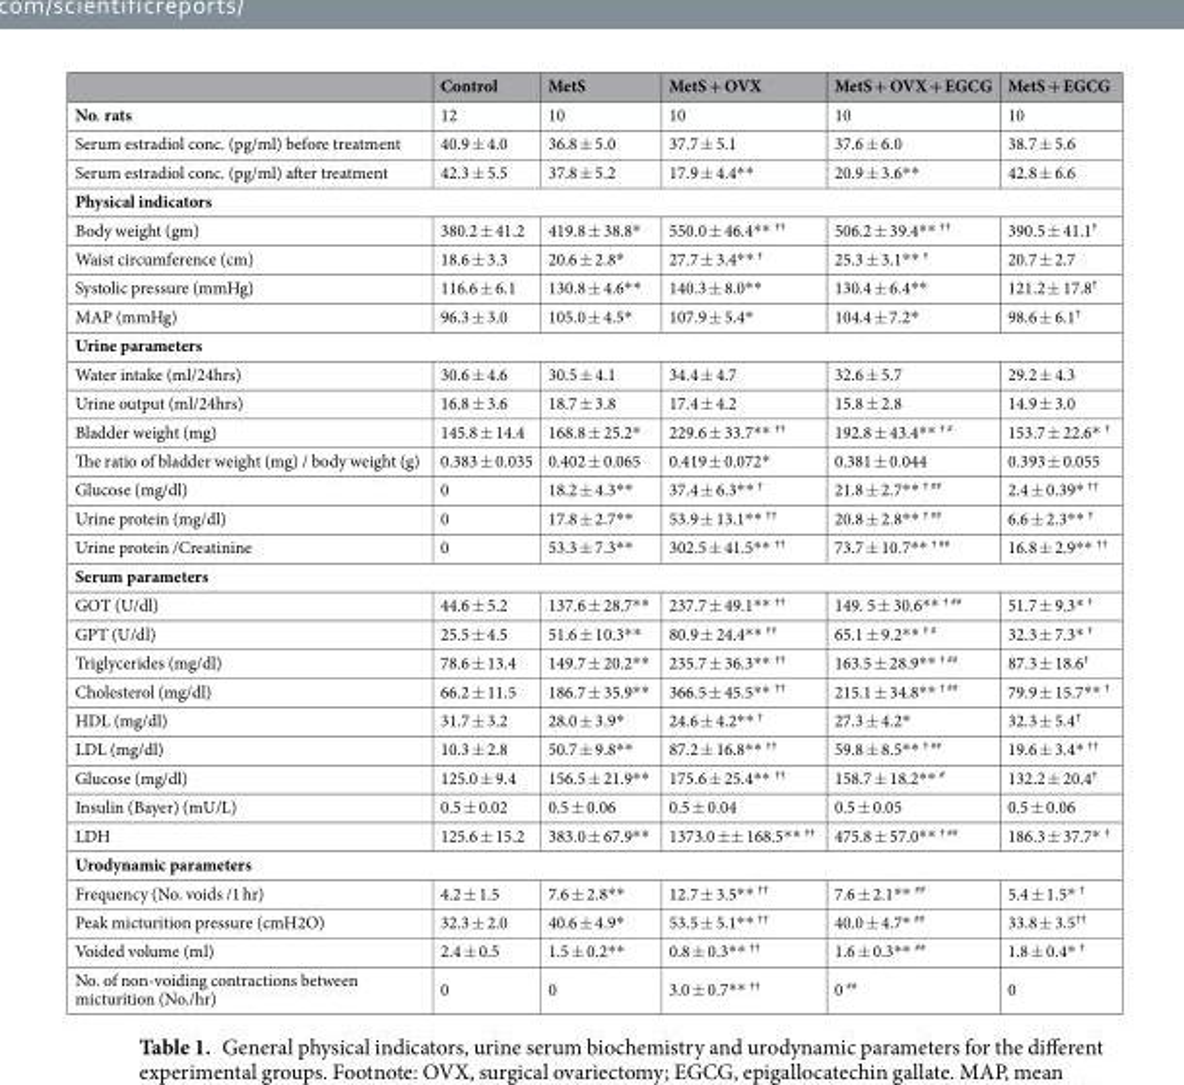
<table><thead><tr><td></td><td>Control</td><td>MetS</td><td>MetS + OVX</td><td>MetS + OVX + EGCG</td><td>MetS + EGCG</td></tr></thead><tbody><tr><td>No. rats</td><td>12</td><td>10</td><td>10</td><td>10</td><td>10</td></tr><tr><td>Serum estradiol conc. (pg/ml) before treatment</td><td>40.9 ± 4.0</td><td>36.8 ± 5.0</td><td>37.7 ± 5.1</td><td>37.6 ± 6.0</td><td>38.7 ± 5.6</td></tr><tr><td>Serum estradiol conc. (pg/ml) after treatment</td><td>42.3 ± 5.5</td><td>37.8 ± 5.2</td><td>17.9 ± 4.4**</td><td>20.9 ± 3.6**</td><td>42.8 ± 6.6</td></tr><tr><td colspan="6">Physical indicators</td></tr><tr><td>Body weight (gm)</td><td>380.2 ± 41.2</td><td>419.8 ± 38.8*</td><td>550.0 ± 46.4** <sup>††</sup></td><td>506.2 ± 39.4** <sup>††</sup></td><td>390.5 ± 41.1<sup>†</sup></td></tr><tr><td>Waist circumference (cm)</td><td>18.6 ± 3.3</td><td>20.6 ± 2.8*</td><td>27.7 ± 3.4** <sup>†</sup></td><td>25.3 ± 3.1** <sup>†</sup></td><td>20.7 ± 2.7</td></tr><tr><td>Systolic pressure (mmHg)</td><td>116.6 ± 6.1</td><td>130.8 ± 4.6**</td><td>140.3 ± 8.0**</td><td>130.4 ± 6.4**</td><td>121.2 ± 17.8<sup>†</sup></td></tr><tr><td>MAP (mmHg)</td><td>96.3 ± 3.0</td><td>105.0 ± 4.5*</td><td>107.9 ± 5.4*</td><td>104.4 ± 7.2*</td><td>98.6 ± 6.1<sup>†</sup></td></tr><tr><td colspan="6">Urine parameters</td></tr><tr><td>Water intake (ml/24hrs)</td><td>30.6 ± 4.6</td><td>30.5 ± 4.1</td><td>34.4 ± 4.7</td><td>32.6 ± 5.7</td><td>29.2 ± 4.3</td></tr><tr><td>Urine output (ml/24hrs)</td><td>16.8 ± 3.6</td><td>18.7 ± 3.8</td><td>17.4 ± 4.2</td><td>15.8 ± 2.8</td><td>14.9 ± 3.0</td></tr><tr><td>Bladder weight (mg)</td><td>145.8 ± 14.4</td><td>168.8 ± 25.2*</td><td>229.6 ± 33.7** <sup>††</sup></td><td>192.8 ± 43.4** <sup>† #</sup></td><td>153.7 ± 22.6* <sup>†</sup></td></tr><tr><td>The ratio of bladder weight (mg) / body weight (g)</td><td>0.383 ± 0.035</td><td>0.402 ± 0.065</td><td>0.419 ± 0.072*</td><td>0.381 ± 0.044</td><td>0.393 ± 0.055</td></tr><tr><td>Glucose (mg/dl)</td><td>0</td><td>18.2 ± 4.3**</td><td>37.4 ± 6.3** <sup>†</sup></td><td>21.8 ± 2.7** <sup>† ##</sup></td><td>2.4 ± 0.39* <sup>††</sup></td></tr><tr><td>Urine protein (mg/dl)</td><td>0</td><td>17.8 ± 2.7**</td><td>53.9 ± 13.1** <sup>††</sup></td><td>20.8 ± 2.8** <sup>† ##</sup></td><td>6.6 ± 2.3** <sup>†</sup></td></tr><tr><td>Urine protein /Creatinine</td><td>0</td><td>53.3 ± 7.3**</td><td>302.5 ± 41.5** <sup>††</sup></td><td>73.7 ± 10.7** <sup>† ##</sup></td><td>16.8 ± 2.9** <sup>††</sup></td></tr><tr><td colspan="6">Serum parameters</td></tr><tr><td>GOT (U/dl)</td><td>44.6 ± 5.2</td><td>137.6 ± 28.7**</td><td>237.7 ± 49.1** <sup>††</sup></td><td>149. 5 ± 30.6** <sup>† ##</sup></td><td>51.7 ± 9.3* <sup>†</sup></td></tr><tr><td>GPT (U/dl)</td><td>25.5 ± 4.5</td><td>51.6 ± 10.3**</td><td>80.9 ± 24.4** <sup>††</sup></td><td>65.1 ± 9.2** <sup>† #</sup></td><td>32.3 ± 7.3* <sup>†</sup></td></tr><tr><td>Triglycerides (mg/dl)</td><td>78.6 ± 13.4</td><td>149.7 ± 20.2**</td><td>235.7 ± 36.3** <sup>††</sup></td><td>163.5 ± 28.9** <sup>† ##</sup></td><td>87.3 ± 18.6<sup>†</sup></td></tr><tr><td>Cholesterol (mg/dl)</td><td>66.2 ± 11.5</td><td>186.7 ± 35.9**</td><td>366.5 ± 45.5** <sup>††</sup></td><td>215.1 ± 34.8** <sup>† ##</sup></td><td>79.9 ± 15.7** <sup>†</sup></td></tr><tr><td>HDL (mg/dl)</td><td>31.7 ± 3.2</td><td>28.0 ± 3.9*</td><td>24.6 ± 4.2** <sup>†</sup></td><td>27.3 ± 4.2*</td><td>32.3 ± 5.4<sup>†</sup></td></tr><tr><td>LDL (mg/dl)</td><td>10.3 ± 2.8</td><td>50.7 ± 9.8**</td><td>87.2 ± 16.8** <sup>††</sup></td><td>59.8 ± 8.5** <sup>† ##</sup></td><td>19.6 ± 3.4* <sup>††</sup></td></tr><tr><td>Glucose (mg/dl)</td><td>125.0 ± 9.4</td><td>156.5 ± 21.9**</td><td>175.6 ± 25.4** <sup>††</sup></td><td>158.7 ± 18.2** <sup>#</sup></td><td>132.2 ± 20.4<sup>†</sup></td></tr><tr><td>Insulin (Bayer) (mU/L)</td><td>0.5 ± 0.02</td><td>0.5 ± 0.06</td><td>0.5 ± 0.04</td><td>0.5 ± 0.05</td><td>0.5 ± 0.06</td></tr><tr><td>LDH</td><td>125.6 ± 15.2</td><td>383.0 ± 67.9**</td><td>1373.0 ±± 168.5** <sup>††</sup></td><td>475.8 ± 57.0** <sup>† ##</sup></td><td>186.3 ± 37.7* <sup>†</sup></td></tr><tr><td colspan="6">Urodynamic parameters</td></tr><tr><td>Frequency (No. voids /1 hr)</td><td>4.2 ± 1.5</td><td>7.6 ± 2.8**</td><td>12.7 ± 3.5** <sup>††</sup></td><td>7.6 ± 2.1** <sup>##</sup></td><td>5.4 ± 1.5* <sup>†</sup></td></tr><tr><td>Peak micturition pressure (cmH2O)</td><td>32.3 ± 2.0</td><td>40.6 ± 4.9*</td><td>53.5 ± 5.1** <sup>††</sup></td><td>40.0 ± 4.7* <sup>##</sup></td><td>33.8 ± 3.5<sup>††</sup></td></tr><tr><td>Voided volume (ml)</td><td>2.4 ± 0.5</td><td>1.5 ± 0.2**</td><td>0.8 ± 0.3** <sup>††</sup></td><td>1.6 ± 0.3** <sup>##</sup></td><td>1.8 ± 0.4* <sup>†</sup></td></tr><tr><td>No. of non-voiding contractions between micturition (No./hr)</td><td>0</td><td>0</td><td>3.0 ± 0.7** <sup>††</sup></td><td>0 <sup>##</sup></td><td>0</td></tr></tbody></table>